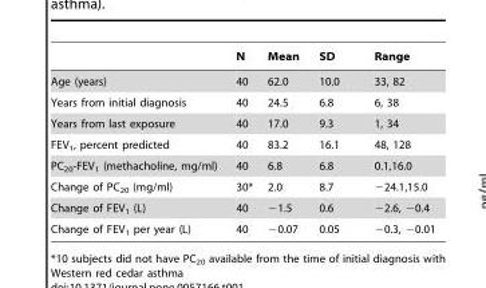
<table><thead><tr><td></td><td>N</td><td>Mean</td><td>SD</td><td>Range</td></tr></thead><tbody><tr><td>Age (years)</td><td>40</td><td>62.0</td><td>10.0</td><td>33, 82</td></tr><tr><td>Years from initial diagnosis</td><td>40</td><td>24.5</td><td>6.8</td><td>6, 38</td></tr><tr><td>Years from last exposure</td><td>40</td><td>17.0</td><td>9.3</td><td>1, 34</td></tr><tr><td>FEV<sub>1</sub>, percent predicted</td><td>40</td><td>83.2</td><td>16.1</td><td>48, 128</td></tr><tr><td>PC<sub>20</sub>-FEV<sub>1</sub> (methacholine, mg/ml)</td><td>40</td><td>6.8</td><td>6.8</td><td>0.1,16.0</td></tr><tr><td>Change of PC<sub>20</sub> (mg/ml)</td><td>30*</td><td>2.0</td><td>8.7</td><td>−24.1,15.0</td></tr><tr><td>Change of FEV<sub>1</sub> (L)</td><td>40</td><td>−1.5</td><td>0.6</td><td>−2.6, −0.4</td></tr><tr><td>Change of FEV<sub>1</sub> per year (L)</td><td>40</td><td>−0.07</td><td>0.05</td><td>−0.3, −0.01</td></tr></tbody></table>